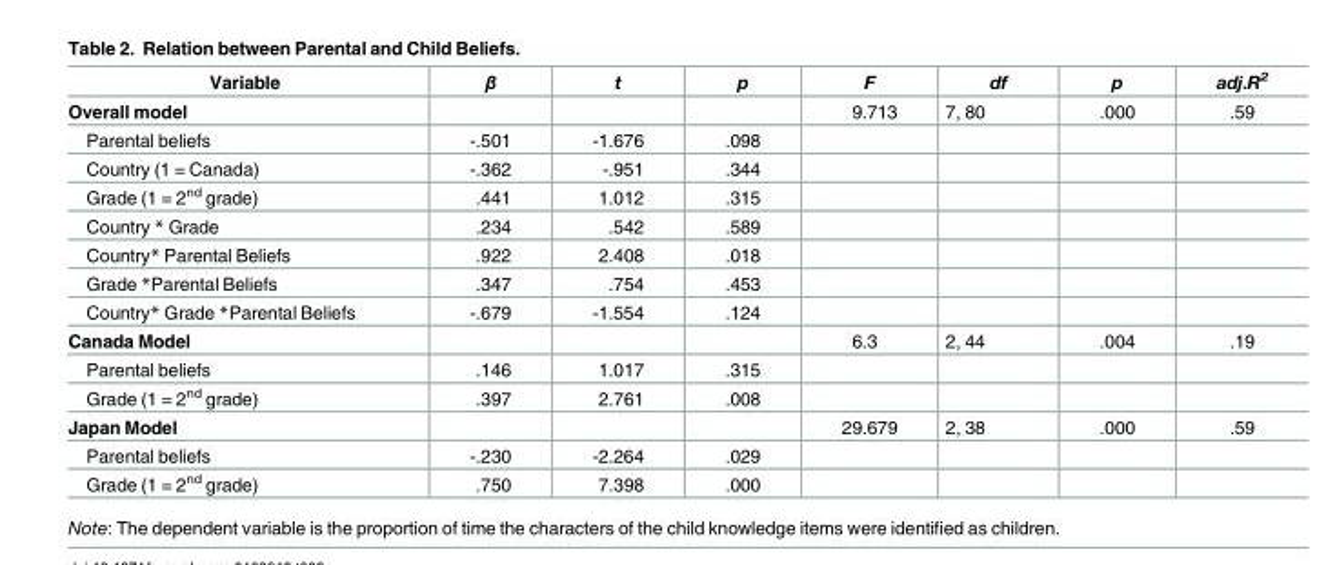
<table><thead><tr><td>Variable</td><td>β</td><td>t</td><td>p</td><td>F</td><td>df</td><td>p</td><td>adj.R<sup>2</sup></td></tr></thead><tbody><tr><td>Overall model</td><td></td><td></td><td></td><td>9.713</td><td>7, 80</td><td>.000</td><td>.59</td></tr><tr><td>Parental beliefs</td><td>-.501</td><td>-1.676</td><td>.098</td><td></td><td></td><td></td><td></td></tr><tr><td>Country (1 = Canada)</td><td>-.362</td><td>-.951</td><td>.344</td><td></td><td></td><td></td><td></td></tr><tr><td>Grade (1 = 2<sup>nd</sup> grade)</td><td>.441</td><td>1.012</td><td>.315</td><td></td><td></td><td></td><td></td></tr><tr><td>Country * Grade</td><td>.234</td><td>.542</td><td>.589</td><td></td><td></td><td></td><td></td></tr><tr><td>Country* Parental Beliefs</td><td>.922</td><td>2.408</td><td>.018</td><td></td><td></td><td></td><td></td></tr><tr><td>Grade *Parental Beliefs</td><td>.347</td><td>.754</td><td>.453</td><td></td><td></td><td></td><td></td></tr><tr><td>Country* Grade *Parental Beliefs</td><td>-.679</td><td>-1.554</td><td>.124</td><td></td><td></td><td></td><td></td></tr><tr><td>Canada Model</td><td></td><td></td><td></td><td>6.3</td><td>2, 44</td><td>.004</td><td>.19</td></tr><tr><td>Parental beliefs</td><td>.146</td><td>1.017</td><td>.315</td><td></td><td></td><td></td><td></td></tr><tr><td>Grade (1 = 2<sup>nd</sup> grade)</td><td>.397</td><td>2.761</td><td>.008</td><td></td><td></td><td></td><td></td></tr><tr><td>Japan Model</td><td></td><td></td><td></td><td>29.679</td><td>2, 38</td><td>.000</td><td>.59</td></tr><tr><td>Parental beliefs</td><td>-.230</td><td>-2.264</td><td>.029</td><td></td><td></td><td></td><td></td></tr><tr><td>Grade (1 = 2<sup>nd</sup> grade)</td><td>.750</td><td>7.398</td><td>.000</td><td></td><td></td><td></td><td></td></tr></tbody></table>